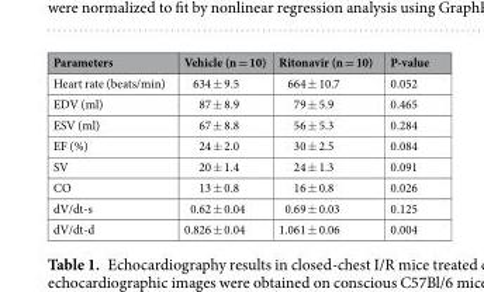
<table><thead><tr><td>Parameters</td><td>Vehicle (n = 10)</td><td>Ritonavir (n = 10)</td><td>P-value</td></tr></thead><tbody><tr><td>Heart rate (beats/min)</td><td>634 ± 9.5</td><td>664 ± 10.7</td><td>0.052</td></tr><tr><td>EDV (ml)</td><td>87 ± 8.9</td><td>79 ± 5.9</td><td>0.465</td></tr><tr><td>ESV (ml)</td><td>67 ± 8.8</td><td>56 ± 5.3</td><td>0.284</td></tr><tr><td>EF (%)</td><td>24 ± 2.0</td><td>30 ± 2.5</td><td>0.084</td></tr><tr><td>SV</td><td>20 ± 1.4</td><td>24 ± 1.3</td><td>0.091</td></tr><tr><td>CO</td><td>13 ± 0.8</td><td>16 ± 0.8</td><td>0.026</td></tr><tr><td>dV/dt-s</td><td>0.62 ± 0.04</td><td>0.69 ± 0.03</td><td>0.125</td></tr><tr><td>dV/dt-d</td><td>0.826 ± 0.04</td><td>1.061 ± 0.06</td><td>0.004</td></tr></tbody></table>